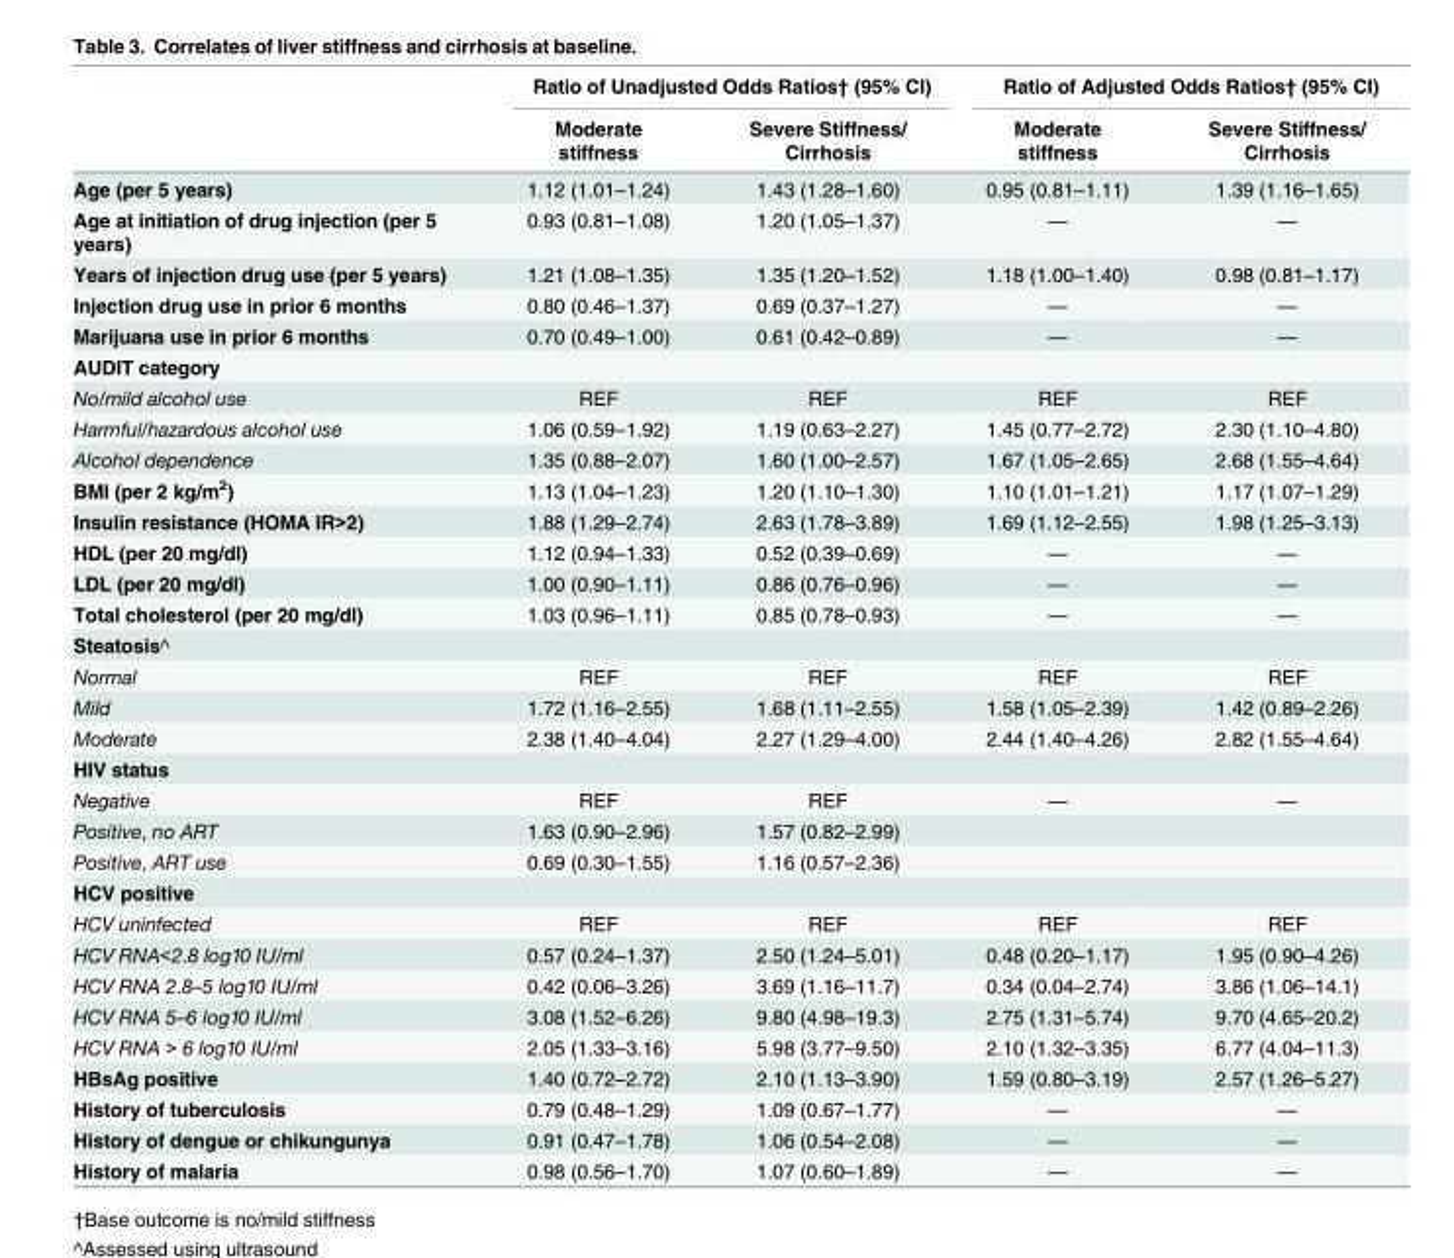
<table><thead><tr><td rowspan="2"></td><td colspan="2">Ratio of Unadjusted Odds Ratios† (95% CI)</td><td colspan="2">Ratio of Adjusted Odds Ratios† (95% CI)</td></tr><tr><td>Moderate stiffness</td><td>Severe Stiffness/ Cirrhosis</td><td>Moderate stiffness</td><td>Severe Stiffness/ Cirrhosis</td></tr></thead><tbody><tr><td>Age (per 5 years)</td><td>1.12 (1.01–1.24)</td><td>1.43 (1.28–1.60)</td><td>0.95 (0.81–1.11)</td><td>1.39 (1.16–1.65)</td></tr><tr><td>Age at initiation of drug injection (per 5 years)</td><td>0.93 (0.81–1.08)</td><td>1.20 (1.05–1.37)</td><td>—</td><td>—</td></tr><tr><td>Years of injection drug use (per 5 years)</td><td>1.21 (1.08–1.35)</td><td>1.35 (1.20–1.52)</td><td>1.18 (1.00–1.40)</td><td>0.98 (0.81–1.17)</td></tr><tr><td>Injection drug use in prior 6 months</td><td>0.80 (0.46–1.37)</td><td>0.69 (0.37–1.27)</td><td>—</td><td>—</td></tr><tr><td>Marijuana use in prior 6 months</td><td>0.70 (0.49–1.00)</td><td>0.61 (0.42–0.89)</td><td>—</td><td>—</td></tr><tr><td colspan="5">AUDIT category</td></tr><tr><td>No/mild alcohol use</td><td>REF</td><td>REF</td><td>REF</td><td>REF</td></tr><tr><td>Harmful/hazardous alcohol use</td><td>1.06 (0.59–1.92)</td><td>1.19 (0.63–2.27)</td><td>1.45 (0.77–2.72)</td><td>2.30 (1.10–4.80)</td></tr><tr><td>Alcohol dependence</td><td>1.35 (0.88–2.07)</td><td>1.60 (1.00–2.57)</td><td>1.67 (1.05–2.65)</td><td>2.68 (1.55–4.64)</td></tr><tr><td>BMI (per 2 kg/m<sup>2</sup>)</td><td>1.13 (1.04–1.23)</td><td>1.20 (1.10–1.30)</td><td>1.10 (1.01–1.21)</td><td>1.17 (1.07–1.29)</td></tr><tr><td>Insulin resistance (HOMA IR&gt;2)</td><td>1.88 (1.29–2.74)</td><td>2.63 (1.78–3.89)</td><td>1.69 (1.12–2.55)</td><td>1.98 (1.25–3.13)</td></tr><tr><td>HDL (per 20 mg/dl)</td><td>1.12 (0.94–1.33)</td><td>0.52 (0.39–0.69)</td><td>—</td><td>—</td></tr><tr><td>LDL (per 20 mg/dl)</td><td>1.00 (0.90–1.11)</td><td>0.86 (0.76–0.96)</td><td>—</td><td>—</td></tr><tr><td>Total cholesterol (per 20 mg/dl)</td><td>1.03 (0.96–1.11)</td><td>0.85 (0.78–0.93)</td><td>—</td><td>—</td></tr><tr><td colspan="5">Steatosis^</td></tr><tr><td>Normal</td><td>REF</td><td>REF</td><td>REF</td><td>REF</td></tr><tr><td>Mild</td><td>1.72 (1.16–2.55)</td><td>1.68 (1.11–2.55)</td><td>1.58 (1.05–2.39)</td><td>1.42 (0.89–2.26)</td></tr><tr><td>Moderate</td><td>2.38 (1.40–4.04)</td><td>2.27 (1.29–4.00)</td><td>2.44 (1.40–4.26)</td><td>2.82 (1.55–4.64)</td></tr><tr><td colspan="5">HIV status</td></tr><tr><td>Negative</td><td>REF</td><td>REF</td><td>—</td><td>—</td></tr><tr><td>Positive, no ART</td><td>1.63 (0.90–2.96)</td><td>1.57 (0.82–2.99)</td><td></td><td></td></tr><tr><td>Positive, ART use</td><td>0.69 (0.30–1.55)</td><td>1.16 (0.57–2.36)</td><td></td><td></td></tr><tr><td colspan="5">HCV positive</td></tr><tr><td>HCV uninfected</td><td>REF</td><td>REF</td><td>REF</td><td>REF</td></tr><tr><td>HCV RNA&lt;2.8 log10 IU/ml</td><td>0.57 (0.24–1.37)</td><td>2.50 (1.24–5.01)</td><td>0.48 (0.20–1.17)</td><td>1.95 (0.90–4.26)</td></tr><tr><td>HCV RNA 2.8–5 log10 IU/ml</td><td>0.42 (0.06–3.26)</td><td>3.69 (1.16–11.7)</td><td>0.34 (0.04–2.74)</td><td>3.86 (1.06–14.1)</td></tr><tr><td>HCV RNA 5–6 log10 IU/ml</td><td>3.08 (1.52–6.26)</td><td>9.80 (4.98–19.3)</td><td>2.75 (1.31–5.74)</td><td>9.70 (4.65–20.2)</td></tr><tr><td>HCV RNA &gt; 6 log10 IU/ml</td><td>2.05 (1.33–3.16)</td><td>5.98 (3.77–9.50)</td><td>2.10 (1.32–3.35)</td><td>6.77 (4.04–11.3)</td></tr><tr><td>HBsAg positive</td><td>1.40 (0.72–2.72)</td><td>2.10 (1.13–3.90)</td><td>1.59 (0.80–3.19)</td><td>2.57 (1.26–5.27)</td></tr><tr><td>History of tuberculosis</td><td>0.79 (0.48–1.29)</td><td>1.09 (0.67–1.77)</td><td>—</td><td>—</td></tr><tr><td>History of dengue or chikungunya</td><td>0.91 (0.47–1.78)</td><td>1.06 (0.54–2.08)</td><td>—</td><td>—</td></tr><tr><td>History of malaria</td><td>0.98 (0.56–1.70)</td><td>1.07 (0.60–1.89)</td><td>—</td><td>—</td></tr></tbody></table>